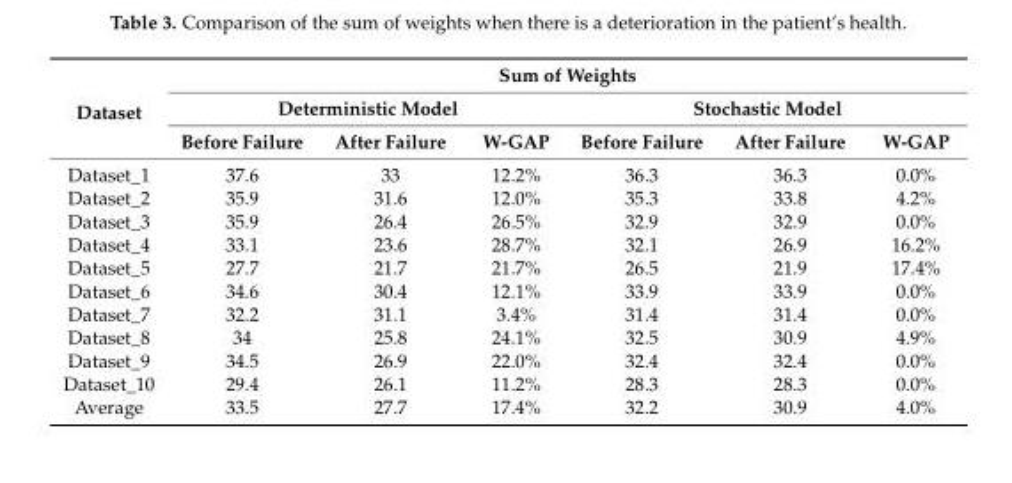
<table><thead><tr><td rowspan="3">Dataset</td><td colspan="6">Sum of Weights</td></tr><tr><td colspan="3">Deterministic Model</td><td colspan="3">Stochastic Model</td></tr><tr><td>Before Failure</td><td>After Failure</td><td>W-GAP</td><td>Before Failure</td><td>After Failure</td><td>W-GAP</td></tr></thead><tbody><tr><td>Dataset_1</td><td>37.6</td><td>33</td><td>12.2%</td><td>36.3</td><td>36.3</td><td>0.0%</td></tr><tr><td>Dataset_2</td><td>35.9</td><td>31.6</td><td>12.0%</td><td>35.3</td><td>33.8</td><td>4.2%</td></tr><tr><td>Dataset_3</td><td>35.9</td><td>26.4</td><td>26.5%</td><td>32.9</td><td>32.9</td><td>0.0%</td></tr><tr><td>Dataset_4</td><td>33.1</td><td>23.6</td><td>28.7%</td><td>32.1</td><td>26.9</td><td>16.2%</td></tr><tr><td>Dataset_5</td><td>27.7</td><td>21.7</td><td>21.7%</td><td>26.5</td><td>21.9</td><td>17.4%</td></tr><tr><td>Dataset_6</td><td>34.6</td><td>30.4</td><td>12.1%</td><td>33.9</td><td>33.9</td><td>0.0%</td></tr><tr><td>Dataset_7</td><td>32.2</td><td>31.1</td><td>3.4%</td><td>31.4</td><td>31.4</td><td>0.0%</td></tr><tr><td>Dataset_8</td><td>34</td><td>25.8</td><td>24.1%</td><td>32.5</td><td>30.9</td><td>4.9%</td></tr><tr><td>Dataset_9</td><td>34.5</td><td>26.9</td><td>22.0%</td><td>32.4</td><td>32.4</td><td>0.0%</td></tr><tr><td>Dataset_10</td><td>29.4</td><td>26.1</td><td>11.2%</td><td>28.3</td><td>28.3</td><td>0.0%</td></tr><tr><td>Average</td><td>33.5</td><td>27.7</td><td>17.4%</td><td>32.2</td><td>30.9</td><td>4.0%</td></tr></tbody></table>